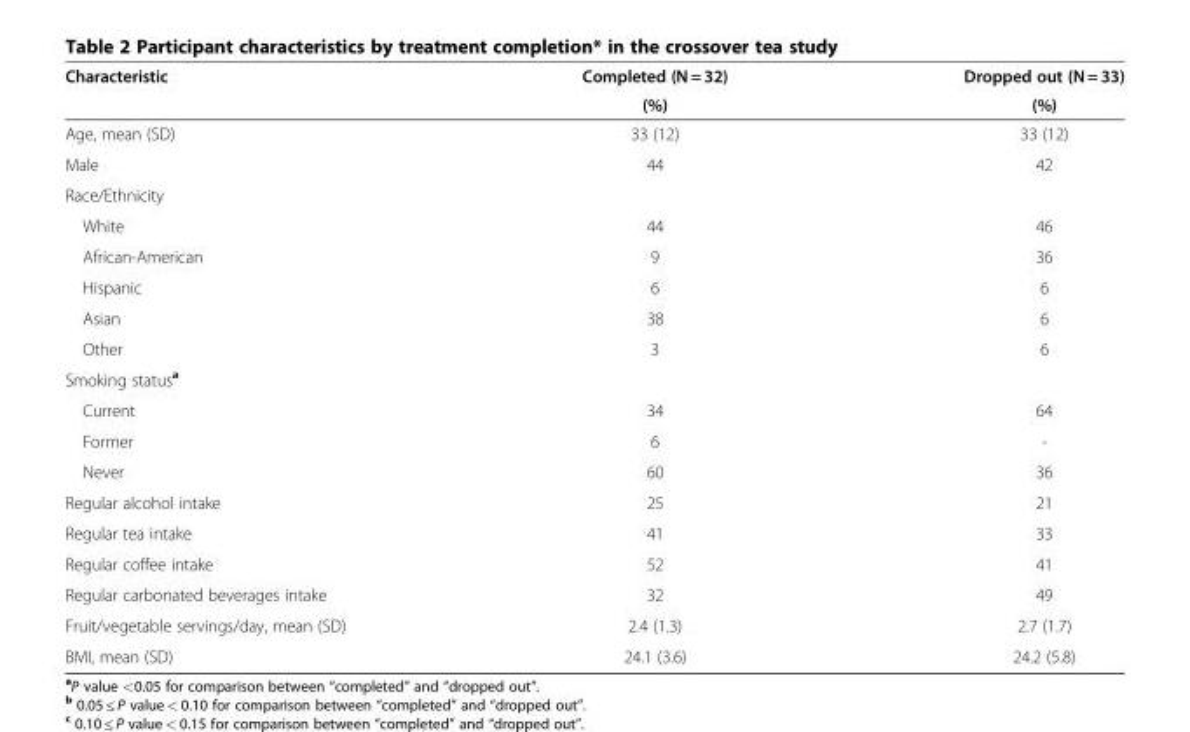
<table><thead><tr><td rowspan="2">Characteristic</td><td rowspan="2">Completed (N = 32) (%)</td><td rowspan="2">Dropped out (N = 33) (%)</td></tr><tr></tr></thead><tbody><tr><td>Age, mean (SD)</td><td>33 (12)</td><td>33 (12)</td></tr><tr><td>Male</td><td>44</td><td>42</td></tr><tr><td colspan="3">Race/Ethnicity</td></tr><tr><td>White</td><td>44</td><td>46</td></tr><tr><td>African-American</td><td>9</td><td>36</td></tr><tr><td>Hispanic</td><td>6</td><td>6</td></tr><tr><td>Asian</td><td>38</td><td>6</td></tr><tr><td>Other</td><td>3</td><td>6</td></tr><tr><td colspan="3">Smoking status<sup>a</sup></td></tr><tr><td>Current</td><td>34</td><td>64</td></tr><tr><td>Former</td><td>6</td><td>-</td></tr><tr><td>Never</td><td>60</td><td>36</td></tr><tr><td>Regular alcohol intake</td><td>25</td><td>21</td></tr><tr><td>Regular tea intake</td><td>41</td><td>33</td></tr><tr><td>Regular coffee intake</td><td>52</td><td>41</td></tr><tr><td>Regular carbonated beverages intake</td><td>32</td><td>49</td></tr><tr><td>Fruit/vegetable servings/day, mean (SD)</td><td>2.4 (1.3)</td><td>2.7 (1.7)</td></tr><tr><td>BMI, mean (SD)</td><td>24.1 (3.6)</td><td>24.2 (5.8)</td></tr></tbody></table>